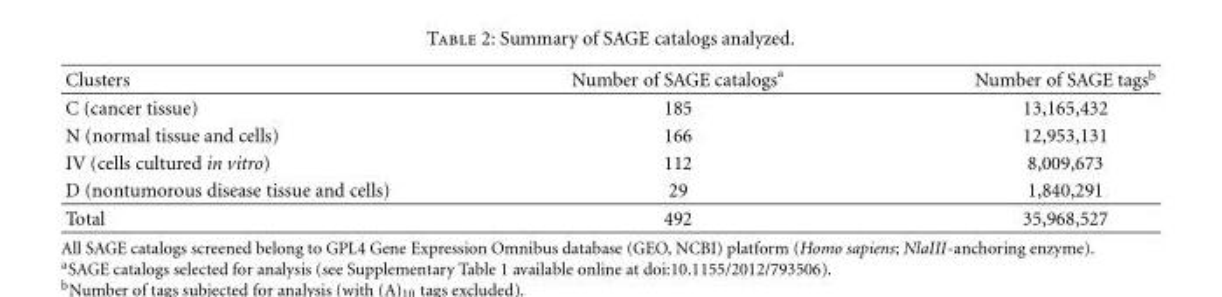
<table><thead><tr><td>Clusters</td><td>Number of SAGE catalogs<sup>a</sup></td><td>Number of SAGE tags<sup>b</sup></td></tr></thead><tbody><tr><td>C (cancer tissue)</td><td>185</td><td>13,165,432</td></tr><tr><td>N (normal tissue and cells)</td><td>166</td><td>12,953,131</td></tr><tr><td>IV (cells cultured in vitro)</td><td>112</td><td>8,009,673</td></tr><tr><td>D (nontumorous disease tissue and cells)</td><td>29</td><td>1,840,291</td></tr><tr><td>Total</td><td>492</td><td>35,968,527</td></tr></tbody></table>